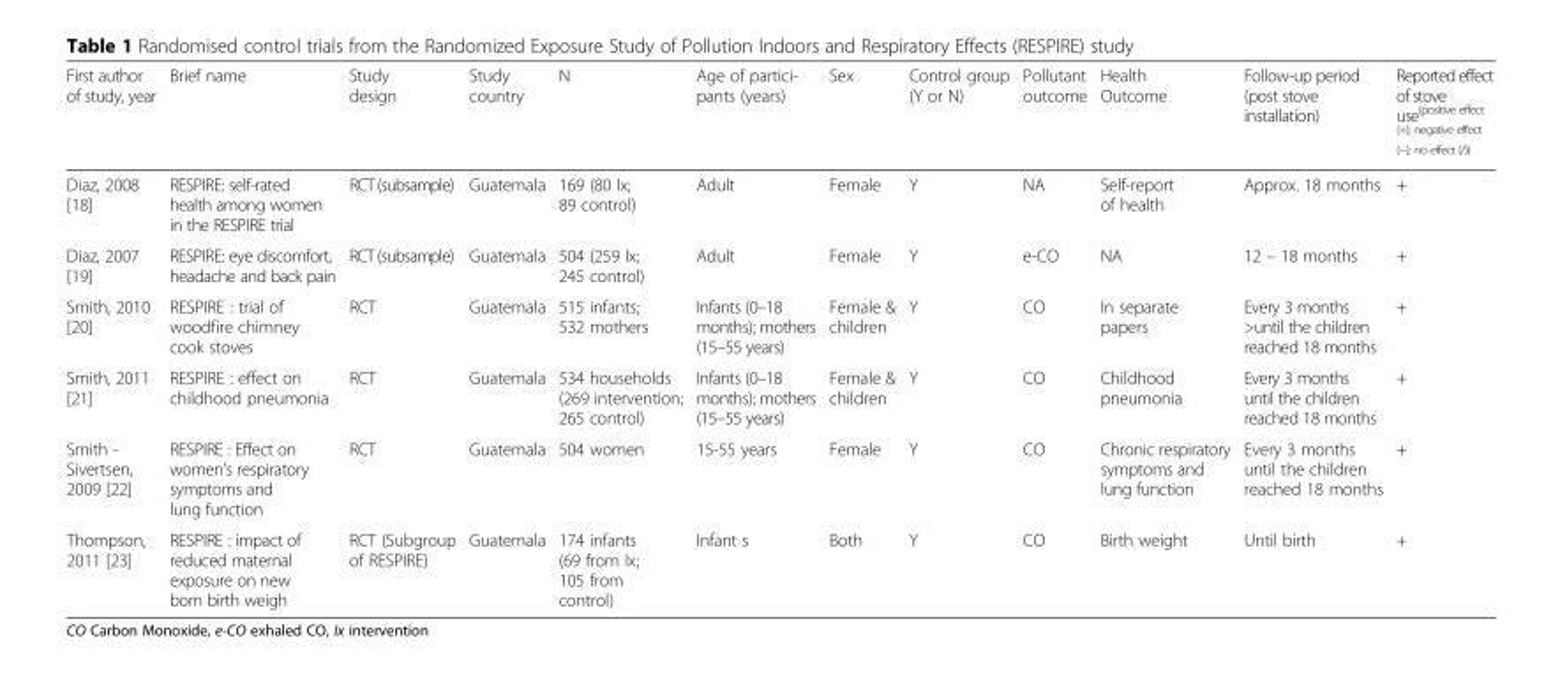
<table><thead><tr><td>First author of study, year</td><td>Brief name</td><td>Study design</td><td>Study country</td><td>N</td><td>Age of partici- pants (years)</td><td>Sex</td><td>Control group (Y or N)</td><td>Pollutant outcome</td><td>Health Outcome</td><td>Follow-up period (post stove installation)</td><td>Reported effect of stove use<sup>(positive effect (+); negative effect (−); no effect (/))</sup></td></tr></thead><tbody><tr><td>Diaz, 2008 [18]</td><td>RESPIRE: self-rated health among women in the RESPIRE trial</td><td>RCT (subsample)</td><td>Guatemala</td><td>169 (80 Ix; 89 control)</td><td>Adult</td><td>Female</td><td>Y</td><td>NA</td><td>Self-report of health</td><td>Approx. 18 months</td><td>+</td></tr><tr><td>Diaz, 2007 [19]</td><td>RESPIRE: eye discomfort, headache and back pain</td><td>RCT (subsample)</td><td>Guatemala</td><td>504 (259 Ix; 245 control)</td><td>Adult</td><td>Female</td><td>Y</td><td>e-CO</td><td>NA</td><td>12 – 18 months</td><td>+</td></tr><tr><td>Smith, 2010 [20]</td><td>RESPIRE : trial of woodfire chimney cook stoves</td><td>RCT</td><td>Guatemala</td><td>515 infants; 532 mothers</td><td>Infants (0–18 months); mothers (15–55 years)</td><td>Female &amp; children</td><td>Y</td><td>CO</td><td>In separate papers</td><td>Every 3 months &gt;until the children reached 18 months</td><td>+</td></tr><tr><td>Smith, 2011 [21]</td><td>RESPIRE : effect on childhood pneumonia</td><td>RCT</td><td>Guatemala</td><td>534 households (269 intervention; 265 control)</td><td>Infants (0–18 months); mothers (15–55 years)</td><td>Female &amp; children</td><td>Y</td><td>CO</td><td>Childhood pneumonia</td><td>Every 3 months until the children reached 18 months</td><td>+</td></tr><tr><td>Smith - Sivertsen, 2009 [22]</td><td>RESPIRE : Effect on women’s respiratory symptoms and lung function</td><td>RCT</td><td>Guatemala</td><td>504 women</td><td>15-55 years</td><td>Female</td><td>Y</td><td>CO</td><td>Chronic respiratory symptoms and lung function</td><td>Every 3 months until the children reached 18 months</td><td>+</td></tr><tr><td>Thompson, 2011 [23]</td><td>RESPIRE : impact of reduced maternal exposure on new born birth weigh</td><td>RCT (Subgroup of RESPIRE)</td><td>Guatemala</td><td>174 infants (69 from Ix; 105 from control)</td><td>Infant s</td><td>Both</td><td>Y</td><td>CO</td><td>Birth weight</td><td>Until birth</td><td>+</td></tr></tbody></table>